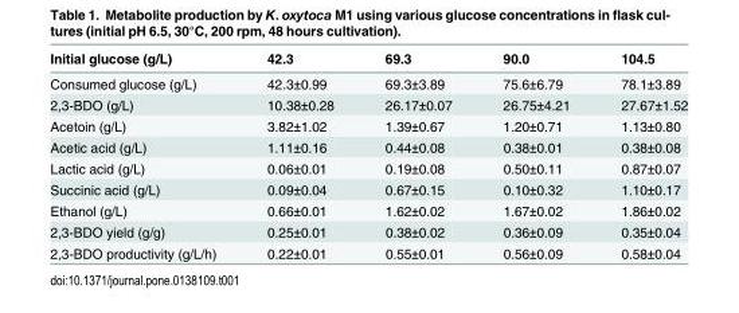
<table><thead><tr><td>Initial glucose (g/L)</td><td>42.3</td><td>69.3</td><td>90.0</td><td>104.5</td></tr></thead><tbody><tr><td>Consumed glucose (g/L)</td><td>42.3±0.99</td><td>69.3±3.89</td><td>75.6±6.79</td><td>78.1±3.89</td></tr><tr><td>2,3-BDO (g/L)</td><td>10.38±0.28</td><td>26.17±0.07</td><td>26.75±4.21</td><td>27.67±1.52</td></tr><tr><td>Acetoin (g/L)</td><td>3.82±1.02</td><td>1.39±0.67</td><td>1.20±0.71</td><td>1.13±0.80</td></tr><tr><td>Acetic acid (g/L)</td><td>1.11±0.16</td><td>0.44±0.08</td><td>0.38±0.01</td><td>0.38±0.08</td></tr><tr><td>Lactic acid (g/L)</td><td>0.06±0.01</td><td>0.19±0.08</td><td>0.50±0.11</td><td>0.87±0.07</td></tr><tr><td>Succinic acid (g/L)</td><td>0.09±0.04</td><td>0.67±0.15</td><td>0.10±0.32</td><td>1.10±0.17</td></tr><tr><td>Ethanol (g/L)</td><td>0.66±0.01</td><td>1.62±0.02</td><td>1.67±0.02</td><td>1.86±0.02</td></tr><tr><td>2,3-BDO yield (g/g)</td><td>0.25±0.01</td><td>0.38±0.02</td><td>0.36±0.09</td><td>0.35±0.04</td></tr><tr><td>2,3-BDO productivity (g/L/h)</td><td>0.22±0.01</td><td>0.55±0.01</td><td>0.56±0.09</td><td>0.58±0.04</td></tr></tbody></table>